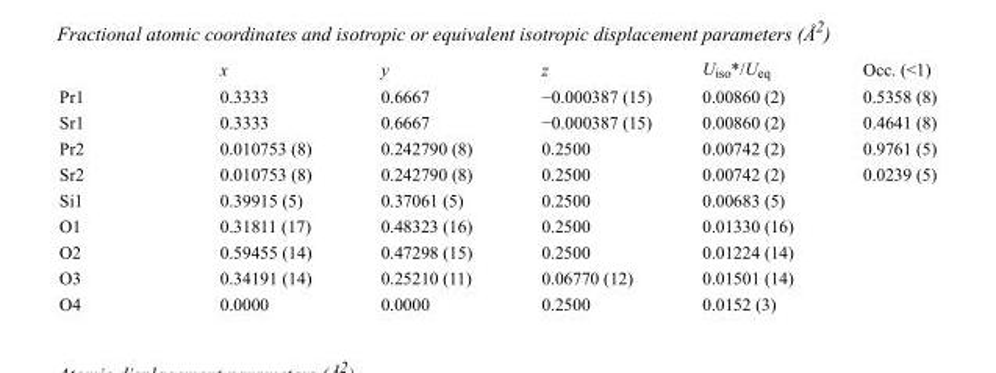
<table><thead><tr><td></td><td>x</td><td>y</td><td>z</td><td>U<sub>iso</sub>*/U<sub>eq</sub></td><td>Occ. (&lt;1)</td></tr></thead><tbody><tr><td>Pr1</td><td>0.3333</td><td>0.6667</td><td>−0.000387 (15)</td><td>0.00860 (2)</td><td>0.5358 (8)</td></tr><tr><td>Sr1</td><td>0.3333</td><td>0.6667</td><td>−0.000387 (15)</td><td>0.00860 (2)</td><td>0.4641 (8)</td></tr><tr><td>Pr2</td><td>0.010753 (8)</td><td>0.242790 (8)</td><td>0.2500</td><td>0.00742 (2)</td><td>0.9761 (5)</td></tr><tr><td>Sr2</td><td>0.010753 (8)</td><td>0.242790 (8)</td><td>0.2500</td><td>0.00742 (2)</td><td>0.0239 (5)</td></tr><tr><td>Si1</td><td>0.39915 (5)</td><td>0.37061 (5)</td><td>0.2500</td><td>0.00683 (5)</td><td></td></tr><tr><td>O1</td><td>0.31811 (17)</td><td>0.48323 (16)</td><td>0.2500</td><td>0.01330 (16)</td><td></td></tr><tr><td>O2</td><td>0.59455 (14)</td><td>0.47298 (15)</td><td>0.2500</td><td>0.01224 (14)</td><td></td></tr><tr><td>O3</td><td>0.34191 (14)</td><td>0.25210 (11)</td><td>0.06770 (12)</td><td>0.01501 (14)</td><td></td></tr><tr><td>O4</td><td>0.0000</td><td>0.0000</td><td>0.2500</td><td>0.0152 (3)</td><td></td></tr></tbody></table>